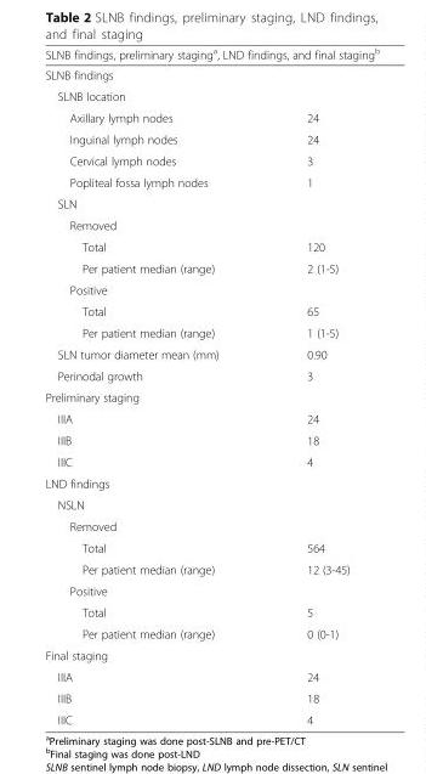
<table><thead><tr><td rowspan="3" colspan="2">SLNB findings, preliminary staging<sup>a</sup>, LND findings, and final staging<sup>b</sup> SLNB findings SLNB location</td></tr><tr></tr><tr></tr><tr><td>Axillary lymph nodes</td><td>24</td></tr></thead><tbody><tr><td>Inguinal lymph nodes</td><td>24</td></tr><tr><td>Cervical lymph nodes</td><td>3</td></tr><tr><td>Popliteal fossa lymph nodes</td><td>1</td></tr><tr><td colspan="2">SLN</td></tr><tr><td colspan="2">Removed</td></tr><tr><td>Total</td><td>120</td></tr><tr><td>Per patient median (range)</td><td>2 (1-5)</td></tr><tr><td colspan="2">Positive</td></tr><tr><td>Total</td><td>65</td></tr><tr><td>Per patient median (range)</td><td>1 (1-5)</td></tr><tr><td>SLN tumor diameter mean (mm)</td><td>0.90</td></tr><tr><td>Perinodal growth</td><td>3</td></tr><tr><td colspan="2">Preliminary staging</td></tr><tr><td>IIIA</td><td>24</td></tr><tr><td>IIIB</td><td>18</td></tr><tr><td>IIIC</td><td>4</td></tr><tr><td colspan="2">LND findings</td></tr><tr><td colspan="2">NSLN</td></tr><tr><td colspan="2">Removed</td></tr><tr><td>Total</td><td>564</td></tr><tr><td>Per patient median (range)</td><td>12 (3-45)</td></tr><tr><td colspan="2">Positive</td></tr><tr><td>Total</td><td>5</td></tr><tr><td>Per patient median (range)</td><td>0 (0-1)</td></tr><tr><td colspan="2">Final staging</td></tr><tr><td>IIIA</td><td>24</td></tr><tr><td>IIIB</td><td>18</td></tr><tr><td>IIIC</td><td>4</td></tr></tbody></table>